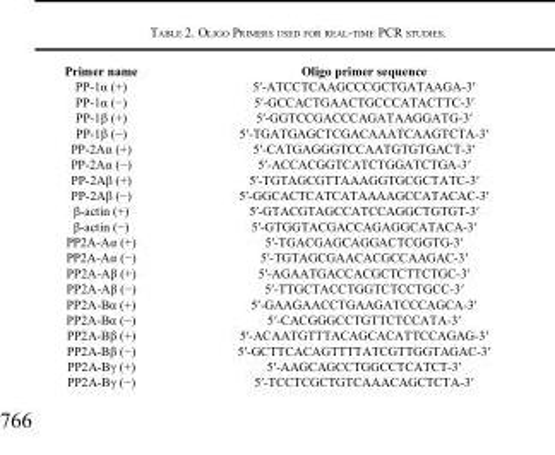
<table><thead><tr><td>Primer name</td><td>Oligo primer sequence</td></tr></thead><tbody><tr><td>PP-1α (+)</td><td>5′-ATCCTCAAGCCCGCTGATAAGA-3′</td></tr><tr><td>PP-1α (−)</td><td>5′-GCCACTGAACTGCCCATACTTC-3′</td></tr><tr><td>PP-1β (+)</td><td>5′-GGTCCGACCCAGATAAGGATG-3′</td></tr><tr><td>PP-1β (−)</td><td>5′-TGATGAGCTCGACAAATCAAGTCTA-3′</td></tr><tr><td>PP-2Aα (+)</td><td>5′-CATGAGGGTCCAATGTGTGACT-3′</td></tr><tr><td>PP-2Aα (−)</td><td>5′-ACCACGGTCATCTGGATCTGA-3′</td></tr><tr><td>PP-2Aβ (+)</td><td>5′-TGTAGCGTTAAAGGTGCGCTATC-3′</td></tr><tr><td>PP-2Aβ (−)</td><td>5′-GGCACTCATCATAAAAGCCATACAC-3′</td></tr><tr><td>β-actin (+)</td><td>5′-GTACGTAGCCATCCAGGCTGTGT-3′</td></tr><tr><td>β-actin (−)</td><td>5′-GTGGTACGACCAGAGGCATACA-3′</td></tr><tr><td>PP2A-Aα (+)</td><td>5′-TGACGAGCAGGACTCGGTG-3′</td></tr><tr><td>PP2A-Aα (−)</td><td>5′-TGTAGCGAACACGCCAAGAC-3′</td></tr><tr><td>PP2A-Aβ (+)</td><td>5′-AGAATGACCACGCTCTTCTGC-3′</td></tr><tr><td>PP2A-Aβ (−)</td><td>5′-TTGCTACCTGGTCTCCTGCC-3′</td></tr><tr><td>PP2A-Bα (+)</td><td>5′-GAAGAACCTGAAGATCCCAGCA-3′</td></tr><tr><td>PP2A-Bα (−)</td><td>5′-CACGGGCCTGTTCTCCATA-3′</td></tr><tr><td>PP2A-Bβ (+)</td><td>5′-ACAATGTTTACAGCACATTCCAGAG-3′</td></tr><tr><td>PP2A-Bβ (−)</td><td>5′-GCTTCACAGTTTTATCGTTGGTAGAC-3′</td></tr><tr><td>PP2A-Bγ (+)</td><td>5′-AAGCAGCCTGGCCTCATCT-3′</td></tr><tr><td>PP2A-Bγ (−)</td><td>5′-TCCTCGCTGTCAAACAGCTCTA-3′</td></tr></tbody></table>